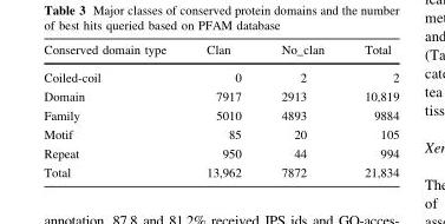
<table><thead><tr><td>Conserved domain type</td><td>Clan</td><td>No_clan</td><td>Total</td></tr></thead><tbody><tr><td>Coiled-coil</td><td>0</td><td>2</td><td>2</td></tr><tr><td>Domain</td><td>7917</td><td>2913</td><td>10,819</td></tr><tr><td>Family</td><td>5010</td><td>4893</td><td>9884</td></tr><tr><td>Motif</td><td>85</td><td>20</td><td>105</td></tr><tr><td>Repeat</td><td>950</td><td>44</td><td>994</td></tr><tr><td>Total</td><td>13,962</td><td>7872</td><td>21,834</td></tr></tbody></table>